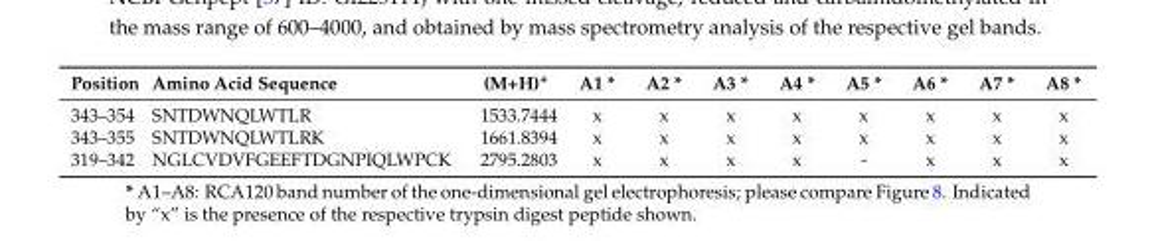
<table><thead><tr><td>Position</td><td>Amino Acid Sequence</td><td>(M+H)<sup>+</sup></td><td>A1 *</td><td>A2 *</td><td>A3 *</td><td>A4 *</td><td>A5 *</td><td>A6 *</td><td>A7 *</td><td>A8 *</td></tr></thead><tbody><tr><td>343–354</td><td>SNTDWNQLWTLR</td><td>1533.7444</td><td>x</td><td>x</td><td>x</td><td>x</td><td>x</td><td>x</td><td>x</td><td>x</td></tr><tr><td>343–355</td><td>SNTDWNQLWTLRK</td><td>1661.8394</td><td>x</td><td>x</td><td>x</td><td>x</td><td>x</td><td>x</td><td>x</td><td>x</td></tr><tr><td>319–342</td><td>NGLCVDVFGEEFTDGNPIQLWPCK</td><td>2795.2803</td><td>x</td><td>x</td><td>x</td><td>x</td><td>-</td><td>x</td><td>x</td><td>x</td></tr></tbody></table>